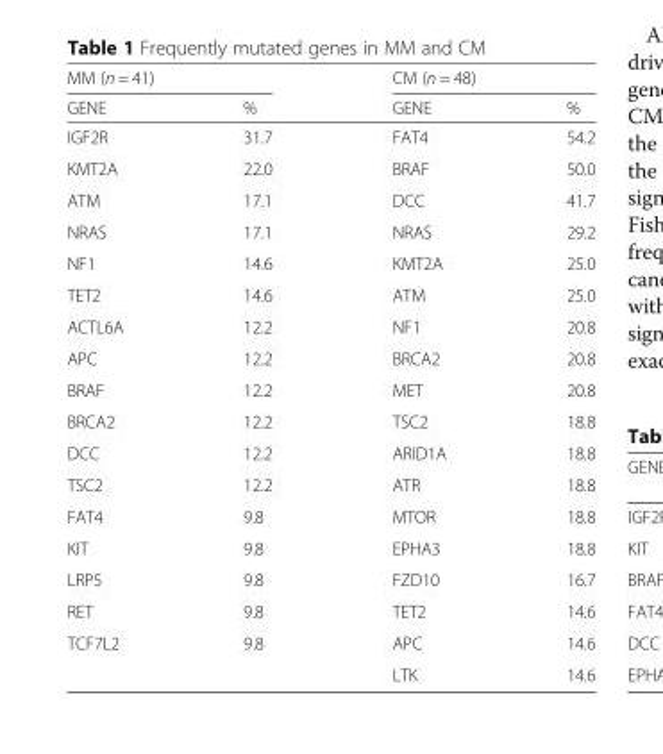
<table><thead><tr><td colspan="2">MM (n = 41)</td><td colspan="2">CM (n = 48)</td></tr><tr><td>GENE</td><td>%</td><td>GENE</td><td>%</td></tr></thead><tbody><tr><td>IGF2R</td><td>31.7</td><td>FAT4</td><td>54.2</td></tr><tr><td>KMT2A</td><td>22.0</td><td>BRAF</td><td>50.0</td></tr><tr><td>ATM</td><td>17.1</td><td>DCC</td><td>41.7</td></tr><tr><td>NRAS</td><td>17.1</td><td>NRAS</td><td>29.2</td></tr><tr><td>NF1</td><td>14.6</td><td>KMT2A</td><td>25.0</td></tr><tr><td>TET2</td><td>14.6</td><td>ATM</td><td>25.0</td></tr><tr><td>ACTL6A</td><td>12.2</td><td>NF1</td><td>20.8</td></tr><tr><td>APC</td><td>12.2</td><td>BRCA2</td><td>20.8</td></tr><tr><td>BRAF</td><td>12.2</td><td>MET</td><td>20.8</td></tr><tr><td>BRCA2</td><td>12.2</td><td>TSC2</td><td>18.8</td></tr><tr><td>DCC</td><td>12.2</td><td>ARID1A</td><td>18.8</td></tr><tr><td>TSC2</td><td>12.2</td><td>ATR</td><td>18.8</td></tr><tr><td>FAT4</td><td>9.8</td><td>MTOR</td><td>18.8</td></tr><tr><td>KIT</td><td>9.8</td><td>EPHA3</td><td>18.8</td></tr><tr><td>LRP5</td><td>9.8</td><td>FZD10</td><td>16.7</td></tr><tr><td>RET</td><td>9.8</td><td>TET2</td><td>14.6</td></tr><tr><td rowspan="2">TCF7L2</td><td>9.8</td><td>APC</td><td>14.6</td></tr><tr><td></td><td>LTK</td><td>14.6</td></tr></tbody></table>